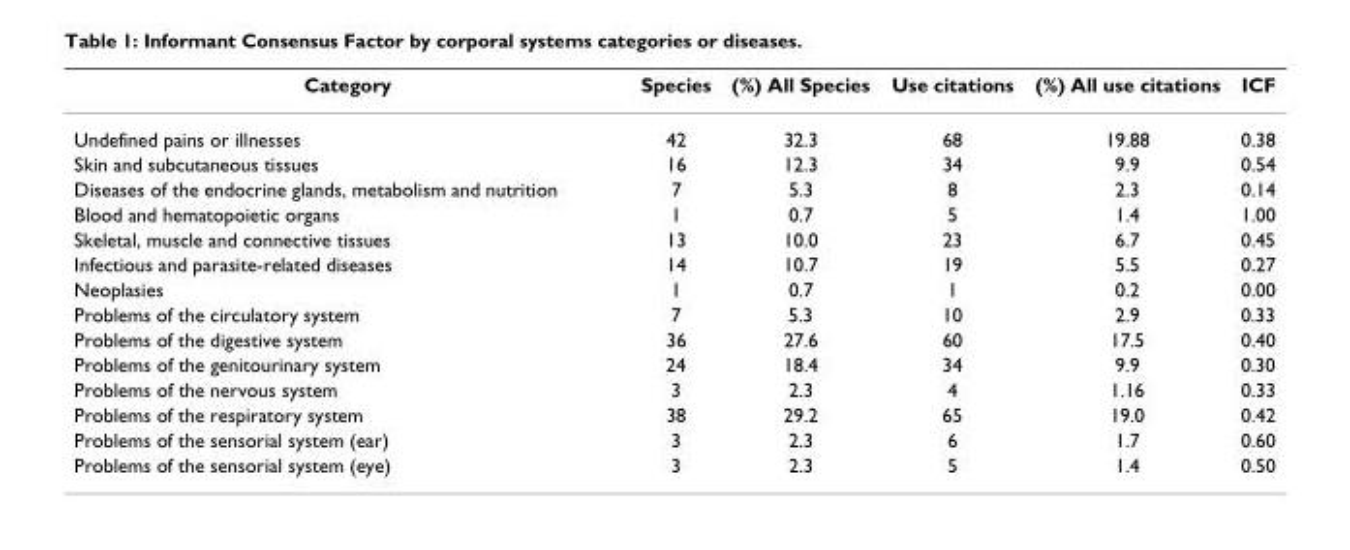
<table><thead><tr><td>Category</td><td>Species</td><td>(%) All Species</td><td>Use citations</td><td>(%) All use citations</td><td>ICF</td></tr></thead><tbody><tr><td>Undefined pains or illnesses</td><td>42</td><td>32.3</td><td>68</td><td>19.88</td><td>0.38</td></tr><tr><td>Skin and subcutaneous tissues</td><td>16</td><td>12.3</td><td>34</td><td>9.9</td><td>0.54</td></tr><tr><td>Diseases of the endocrine glands, metabolism and nutrition</td><td>7</td><td>5.3</td><td>8</td><td>2.3</td><td>0.14</td></tr><tr><td>Blood and hematopoietic organs</td><td>1</td><td>0.7</td><td>5</td><td>1.4</td><td>1.00</td></tr><tr><td>Skeletal, muscle and connective tissues</td><td>13</td><td>10.0</td><td>23</td><td>6.7</td><td>0.45</td></tr><tr><td>Infectious and parasite-related diseases</td><td>14</td><td>10.7</td><td>19</td><td>5.5</td><td>0.27</td></tr><tr><td>Neoplasies</td><td>1</td><td>0.7</td><td>1</td><td>0.2</td><td>0.00</td></tr><tr><td>Problems of the circulatory system</td><td>7</td><td>5.3</td><td>10</td><td>2.9</td><td>0.33</td></tr><tr><td>Problems of the digestive system</td><td>36</td><td>27.6</td><td>60</td><td>17.5</td><td>0.40</td></tr><tr><td>Problems of the genitourinary system</td><td>24</td><td>18.4</td><td>34</td><td>9.9</td><td>0.30</td></tr><tr><td>Problems of the nervous system</td><td>3</td><td>2.3</td><td>4</td><td>1.16</td><td>0.33</td></tr><tr><td>Problems of the respiratory system</td><td>38</td><td>29.2</td><td>65</td><td>19.0</td><td>0.42</td></tr><tr><td>Problems of the sensorial system (ear)</td><td>3</td><td>2.3</td><td>6</td><td>1.7</td><td>0.60</td></tr><tr><td>Problems of the sensorial system (eye)</td><td>3</td><td>2.3</td><td>5</td><td>1.4</td><td>0.50</td></tr></tbody></table>